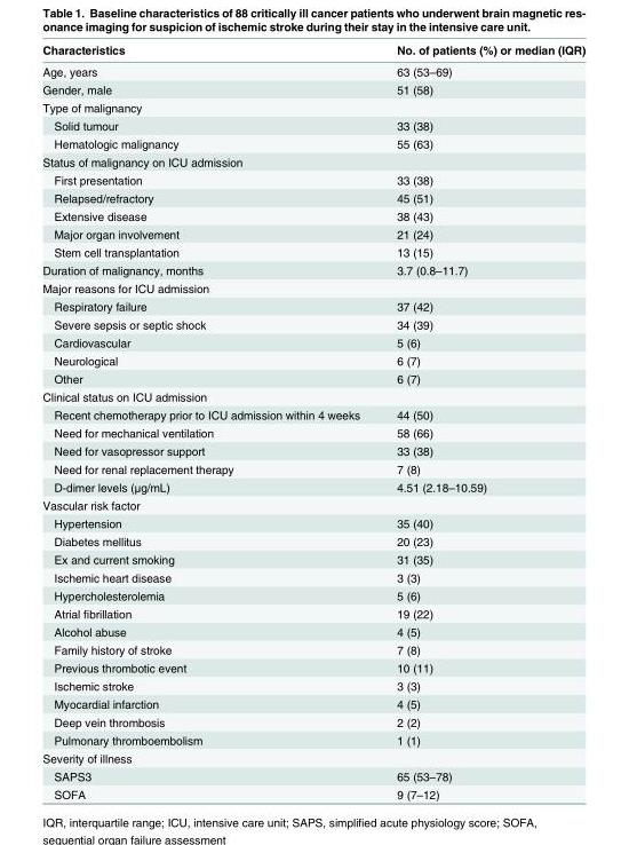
<table><thead><tr><td>Characteristics</td><td>No. of patients (%) or median (IQR)</td></tr></thead><tbody><tr><td>Age, years</td><td>63 (53–69)</td></tr><tr><td>Gender, male</td><td>51 (58)</td></tr><tr><td colspan="2">Type of malignancy</td></tr><tr><td>Solid tumour</td><td>33 (38)</td></tr><tr><td>Hematologic malignancy</td><td>55 (63)</td></tr><tr><td colspan="2">Status of malignancy on ICU admission</td></tr><tr><td>First presentation</td><td>33 (38)</td></tr><tr><td>Relapsed/refractory</td><td>45 (51)</td></tr><tr><td>Extensive disease</td><td>38 (43)</td></tr><tr><td>Major organ involvement</td><td>21 (24)</td></tr><tr><td>Stem cell transplantation</td><td>13 (15)</td></tr><tr><td>Duration of malignancy, months</td><td>3.7 (0.8–11.7)</td></tr><tr><td colspan="2">Major reasons for ICU admission</td></tr><tr><td>Respiratory failure</td><td>37 (42)</td></tr><tr><td>Severe sepsis or septic shock</td><td>34 (39)</td></tr><tr><td>Cardiovascular</td><td>5 (6)</td></tr><tr><td>Neurological</td><td>6 (7)</td></tr><tr><td>Other</td><td>6 (7)</td></tr><tr><td colspan="2">Clinical status on ICU admission</td></tr><tr><td>Recent chemotherapy prior to ICU admission within 4 weeks</td><td>44 (50)</td></tr><tr><td>Need for mechanical ventilation</td><td>58 (66)</td></tr><tr><td>Need for vasopressor support</td><td>33 (38)</td></tr><tr><td>Need for renal replacement therapy</td><td>7 (8)</td></tr><tr><td>D-dimer levels (μg/mL)</td><td>4.51 (2.18–10.59)</td></tr><tr><td colspan="2">Vascular risk factor</td></tr><tr><td>Hypertension</td><td>35 (40)</td></tr><tr><td>Diabetes mellitus</td><td>20 (23)</td></tr><tr><td>Ex and current smoking</td><td>31 (35)</td></tr><tr><td>Ischemic heart disease</td><td>3 (3)</td></tr><tr><td>Hypercholesterolemia</td><td>5 (6)</td></tr><tr><td>Atrial fibrillation</td><td>19 (22)</td></tr><tr><td>Alcohol abuse</td><td>4 (5)</td></tr><tr><td>Family history of stroke</td><td>7 (8)</td></tr><tr><td>Previous thrombotic event</td><td>10 (11)</td></tr><tr><td>Ischemic stroke</td><td>3 (3)</td></tr><tr><td>Myocardial infarction</td><td>4 (5)</td></tr><tr><td>Deep vein thrombosis</td><td>2 (2)</td></tr><tr><td>Pulmonary thromboembolism</td><td>1 (1)</td></tr><tr><td colspan="2">Severity of illness</td></tr><tr><td>SAPS3</td><td>65 (53–78)</td></tr><tr><td>SOFA</td><td>9 (7–12)</td></tr></tbody></table>